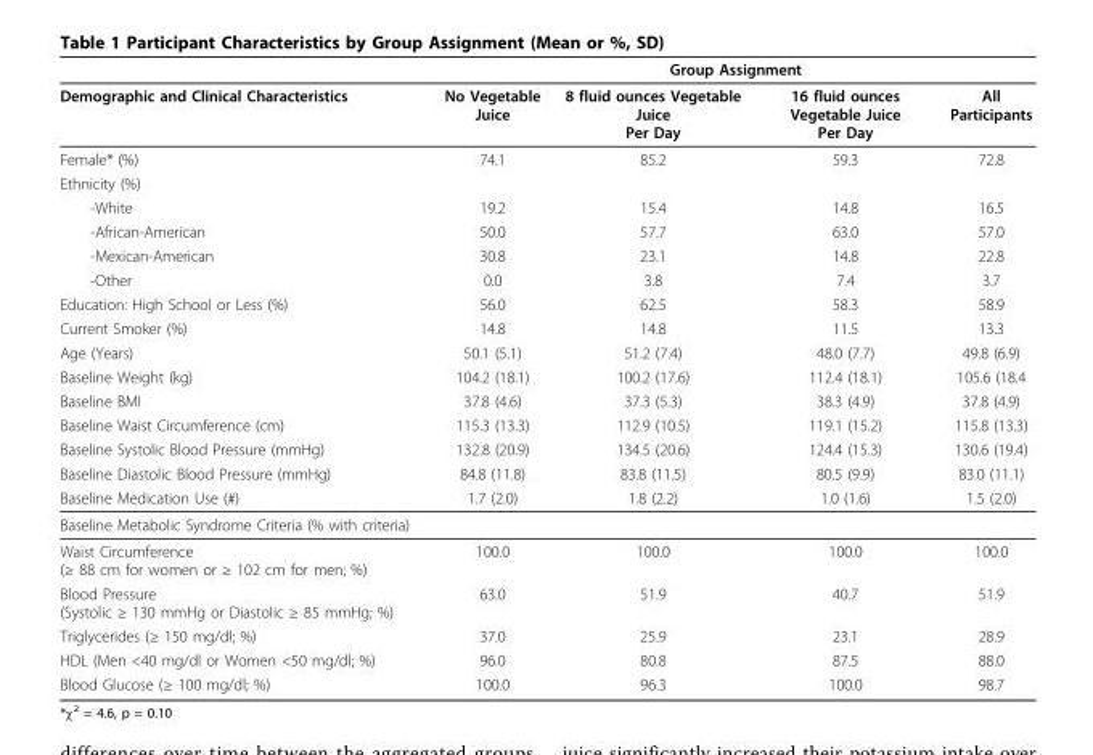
<table><thead><tr><td rowspan="2">Demographic and Clinical Characteristics</td><td colspan="4">Group Assignment</td></tr><tr><td>No Vegetable Juice</td><td>8 fluid ounces Vegetable Juice Per Day</td><td>16 fluid ounces Vegetable Juice Per Day</td><td>All Participants</td></tr></thead><tbody><tr><td>Female* (%)</td><td>74.1</td><td>85.2</td><td>59.3</td><td>72.8</td></tr><tr><td colspan="5">Ethnicity (%)</td></tr><tr><td>-White</td><td>19.2</td><td>15.4</td><td>14.8</td><td>16.5</td></tr><tr><td>-African-American</td><td>50.0</td><td>57.7</td><td>63.0</td><td>57.0</td></tr><tr><td>-Mexican-American</td><td>30.8</td><td>23.1</td><td>14.8</td><td>22.8</td></tr><tr><td>-Other</td><td>0.0</td><td>3.8</td><td>7.4</td><td>3.7</td></tr><tr><td>Education: High School or Less (%)</td><td>56.0</td><td>62.5</td><td>58.3</td><td>58.9</td></tr><tr><td>Current Smoker (%)</td><td>14.8</td><td>14.8</td><td>11.5</td><td>13.3</td></tr><tr><td>Age (Years)</td><td>50.1 (5.1)</td><td>51.2 (7.4)</td><td>48.0 (7.7)</td><td>49.8 (6.9)</td></tr><tr><td>Baseline Weight (kg)</td><td>104.2 (18.1)</td><td>100.2 (17.6)</td><td>112.4 (18.1)</td><td>105.6 (18.4</td></tr><tr><td>Baseline BMI</td><td>37.8 (4.6)</td><td>37.3 (5.3)</td><td>38.3 (4.9)</td><td>37.8 (4.9)</td></tr><tr><td>Baseline Waist Circumference (cm)</td><td>115.3 (13.3)</td><td>112.9 (10.5)</td><td>119.1 (15.2)</td><td>115.8 (13.3)</td></tr><tr><td>Baseline Systolic Blood Pressure (mmHg)</td><td>132.8 (20.9)</td><td>134.5 (20.6)</td><td>124.4 (15.3)</td><td>130.6 (19.4)</td></tr><tr><td>Baseline Diastolic Blood Pressure (mmHg)</td><td>84.8 (11.8)</td><td>83.8 (11.5)</td><td>80.5 (9.9)</td><td>83.0 (11.1)</td></tr><tr><td>Baseline Medication Use (#)</td><td>1.7 (2.0)</td><td>1.8 (2.2)</td><td>1.0 (1.6)</td><td>1.5 (2.0)</td></tr><tr><td colspan="5">Baseline Metabolic Syndrome Criteria (% with criteria)</td></tr><tr><td>Waist Circumference (≥ 88 cm for women or ≥ 102 cm for men; %)</td><td>100.0</td><td>100.0</td><td>100.0</td><td>100.0</td></tr><tr><td>Blood Pressure (Systolic ≥ 130 mmHg or Diastolic ≥ 85 mmHg; %)</td><td>63.0</td><td>51.9</td><td>40.7</td><td>51.9</td></tr><tr><td>Triglycerides (≥ 150 mg/dl; %)</td><td>37.0</td><td>25.9</td><td>23.1</td><td>28.9</td></tr><tr><td>HDL (Men &lt;40 mg/dl or Women &lt;50 mg/dl; %)</td><td>96.0</td><td>80.8</td><td>87.5</td><td>88.0</td></tr><tr><td>Blood Glucose (≥ 100 mg/dl; %)</td><td>100.0</td><td>96.3</td><td>100.0</td><td>98.7</td></tr></tbody></table>